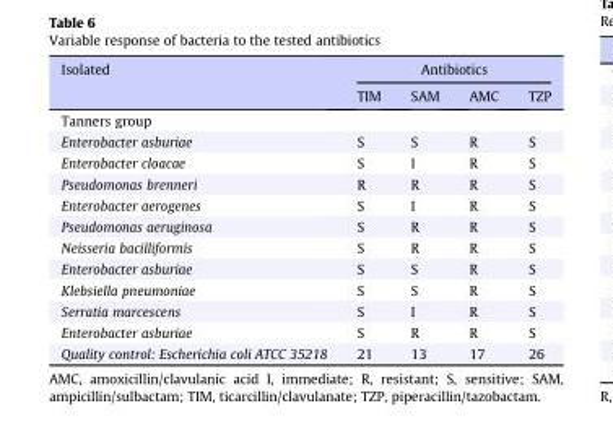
<table><thead><tr><td rowspan="2">Isolated</td><td colspan="4">Antibiotics</td></tr><tr><td>TIM</td><td>SAM</td><td>AMC</td><td>TZP</td></tr></thead><tbody><tr><td colspan="5">Tanners group</td></tr><tr><td>Enterobacter asburiae</td><td>S</td><td>S</td><td>R</td><td>S</td></tr><tr><td>Enterobacter cloacae</td><td>S</td><td>I</td><td>R</td><td>S</td></tr><tr><td>Pseudomonas brenneri</td><td>R</td><td>R</td><td>R</td><td>S</td></tr><tr><td>Enterobacter aerogenes</td><td>S</td><td>I</td><td>R</td><td>S</td></tr><tr><td>Pseudomonas aeruginosa</td><td>S</td><td>R</td><td>R</td><td>S</td></tr><tr><td>Neisseria bacilliformis</td><td>S</td><td>R</td><td>R</td><td>S</td></tr><tr><td>Enterobacter asburiae</td><td>S</td><td>S</td><td>R</td><td>S</td></tr><tr><td>Klebsiella pneumoniae</td><td>S</td><td>S</td><td>R</td><td>S</td></tr><tr><td>Serratia marcescens</td><td>S</td><td>I</td><td>R</td><td>S</td></tr><tr><td>Enterobacter asburiae</td><td>S</td><td>R</td><td>R</td><td>S</td></tr><tr><td>Quality control: Escherichia coli ATCC 35218</td><td>21</td><td>13</td><td>17</td><td>26</td></tr></tbody></table>